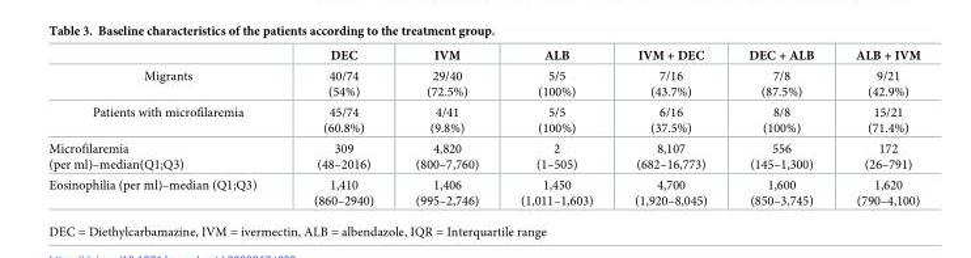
<table><thead><tr><td></td><td>DEC</td><td>IVM</td><td>ALB</td><td>IVM + DEC</td><td>DEC + ALB</td><td>ALB + IVM</td></tr></thead><tbody><tr><td>Migrants</td><td>40/74 (54%)</td><td>29/40 (72.5%)</td><td>5/5 (100%)</td><td>7/16 (43.7%)</td><td>7/8 (87.5%)</td><td>9/21 (42.9%)</td></tr><tr><td>Patients with microfilaremia</td><td>45/74 (60.8%)</td><td>4/41 (9.8%)</td><td>5/5 (100%)</td><td>6/16 (37.5%)</td><td>8/8 (100%)</td><td>15/21 (71.4%)</td></tr><tr><td>Microfilaremia (per ml)–median(Q1;Q3)</td><td>309 (48–2016)</td><td>4,820 (800–7,760)</td><td>2 (1–505)</td><td>8,107 (682–16,773)</td><td>556 (145–1,300)</td><td>172 (26–791)</td></tr><tr><td>Eosinophilia (per ml)–median (Q1;Q3)</td><td>1,410 (860–2940)</td><td>1,406 (995–2,746)</td><td>1,450 (1,011–1,603)</td><td>4,700 (1,920–8,045)</td><td>1,600 (850–3,745)</td><td>1,620 (790–4,100)</td></tr></tbody></table>